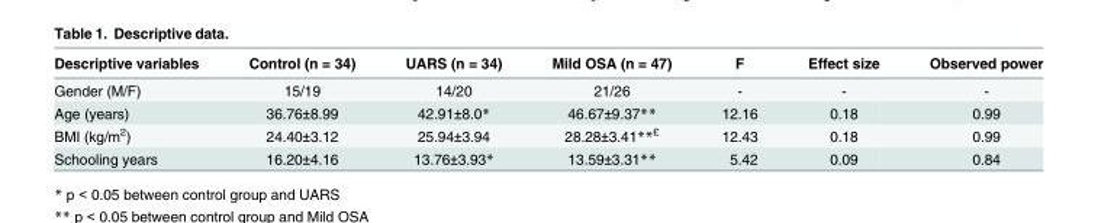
<table><thead><tr><td>Descriptive variables</td><td>Control (n = 34)</td><td>UARS (n = 34)</td><td>Mild OSA (n = 47)</td><td>F</td><td>Effect size</td><td>Observed power</td></tr></thead><tbody><tr><td>Gender (M/F)</td><td>15/19</td><td>14/20</td><td>21/26</td><td>-</td><td>-</td><td>-</td></tr><tr><td>Age (years)</td><td>36.76±8.99</td><td>42.91±8.0*</td><td>46.67±9.37**</td><td>12.16</td><td>0.18</td><td>0.99</td></tr><tr><td>BMI (kg/m<sup>2</sup>)</td><td>24.40±3.12</td><td>25.94±3.94</td><td>28.28±3.41**<sup>£</sup></td><td>12.43</td><td>0.18</td><td>0.99</td></tr><tr><td>Schooling years</td><td>16.20±4.16</td><td>13.76±3.93*</td><td>13.59±3.31**</td><td>5.42</td><td>0.09</td><td>0.84</td></tr></tbody></table>